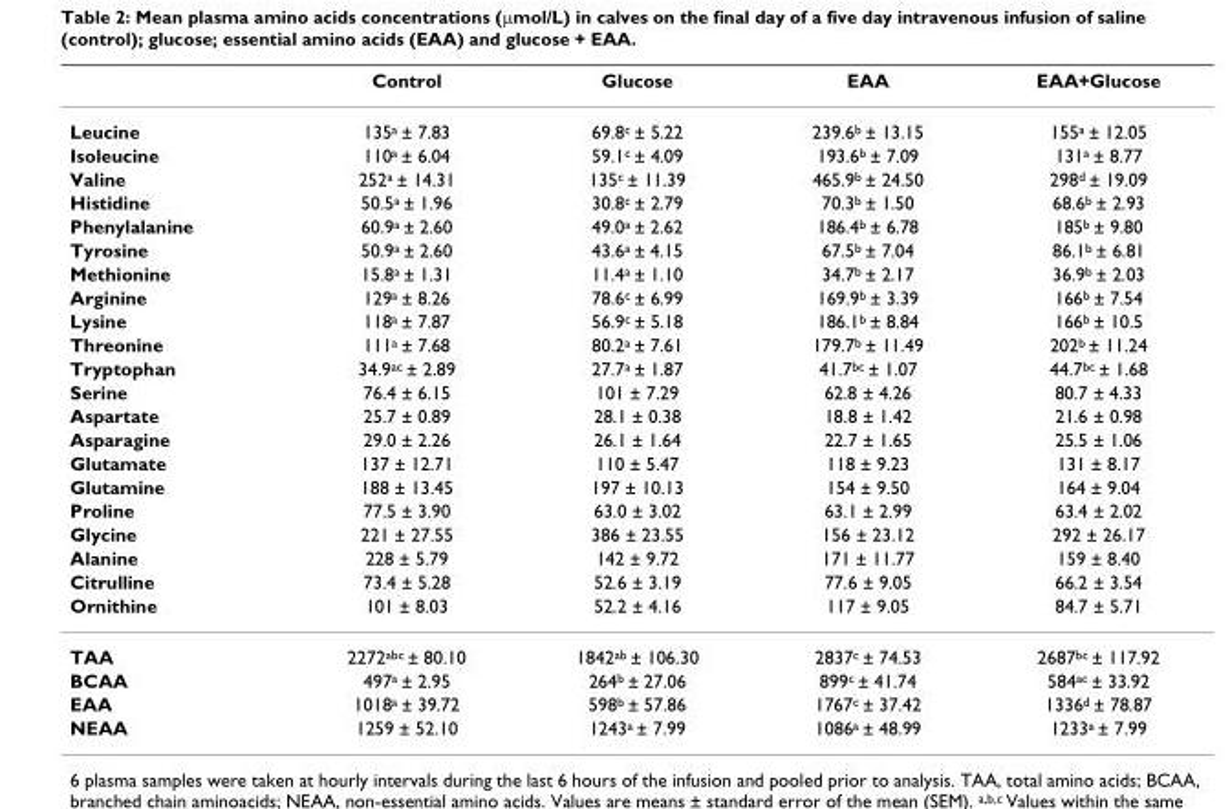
<table><thead><tr><td></td><td>Control</td><td>Glucose</td><td>EAA</td><td>EAA+Glucose</td></tr></thead><tbody><tr><td>Leucine</td><td>135<sup>a</sup> ± 7.83</td><td>69.8<sup>c</sup> ± 5.22</td><td>239.6<sup>b</sup> ± 13.15</td><td>155<sup>a</sup> ± 12.05</td></tr><tr><td>Isoleucine</td><td>110<sup>a</sup> ± 6.04</td><td>59.1<sup>c</sup> ± 4.09</td><td>193.6<sup>b</sup> ± 7.09</td><td>131<sup>a</sup> ± 8.77</td></tr><tr><td>Valine</td><td>252<sup>a</sup> ± 14.31</td><td>135<sup>c</sup> ± 11.39</td><td>465.9<sup>b</sup> ± 24.50</td><td>298<sup>d</sup> ± 19.09</td></tr><tr><td>Histidine</td><td>50.5<sup>a</sup> ± 1.96</td><td>30.8<sup>c</sup> ± 2.79</td><td>70.3<sup>b</sup> ± 1.50</td><td>68.6<sup>b</sup> ± 2.93</td></tr><tr><td>Phenylalanine</td><td>60.9<sup>a</sup> ± 2.60</td><td>49.0<sup>a</sup> ± 2.62</td><td>186.4<sup>b</sup> ± 6.78</td><td>185<sup>b</sup> ± 9.80</td></tr><tr><td>Tyrosine</td><td>50.9<sup>a</sup> ± 2.60</td><td>43.6<sup>a</sup> ± 4.15</td><td>67.5<sup>b</sup> ± 7.04</td><td>86.1<sup>b</sup> ± 6.81</td></tr><tr><td>Methionine</td><td>15.8<sup>a</sup> ± 1.31</td><td>11.4<sup>a</sup> ± 1.10</td><td>34.7<sup>b</sup> ± 2.17</td><td>36.9<sup>b</sup> ± 2.03</td></tr><tr><td>Arginine</td><td>129<sup>a</sup> ± 8.26</td><td>78.6<sup>c</sup> ± 6.99</td><td>169.9<sup>b</sup> ± 3.39</td><td>166<sup>b</sup> ± 7.54</td></tr><tr><td>Lysine</td><td>118<sup>a</sup> ± 7.87</td><td>56.9<sup>c</sup> ± 5.18</td><td>186.1<sup>b</sup> ± 8.84</td><td>166<sup>b</sup> ± 10.5</td></tr><tr><td>Threonine</td><td>111<sup>a</sup> ± 7.68</td><td>80.2<sup>a</sup> ± 7.61</td><td>179.7<sup>b</sup> ± 11.49</td><td>202<sup>b</sup> ± 11.24</td></tr><tr><td>Tryptophan</td><td>34.9<sup>ac</sup> ± 2.89</td><td>27.7<sup>a</sup> ± 1.87</td><td>41.7<sup>bc</sup> ± 1.07</td><td>44.7<sup>bc</sup> ± 1.68</td></tr><tr><td>Serine</td><td>76.4 ± 6.15</td><td>101 ± 7.29</td><td>62.8 ± 4.26</td><td>80.7 ± 4.33</td></tr><tr><td>Aspartate</td><td>25.7 ± 0.89</td><td>28.1 ± 0.38</td><td>18.8 ± 1.42</td><td>21.6 ± 0.98</td></tr><tr><td>Asparagine</td><td>29.0 ± 2.26</td><td>26.1 ± 1.64</td><td>22.7 ± 1.65</td><td>25.5 ± 1.06</td></tr><tr><td>Glutamate</td><td>137 ± 12.71</td><td>110 ± 5.47</td><td>118 ± 9.23</td><td>131 ± 8.17</td></tr><tr><td>Glutamine</td><td>188 ± 13.45</td><td>197 ± 10.13</td><td>154 ± 9.50</td><td>164 ± 9.04</td></tr><tr><td>Proline</td><td>77.5 ± 3.90</td><td>63.0 ± 3.02</td><td>63.1 ± 2.99</td><td>63.4 ± 2.02</td></tr><tr><td>Glycine</td><td>221 ± 27.55</td><td>386 ± 23.55</td><td>156 ± 23.12</td><td>292 ± 26.17</td></tr><tr><td>Alanine</td><td>228 ± 5.79</td><td>142 ± 9.72</td><td>171 ± 11.77</td><td>159 ± 8.40</td></tr><tr><td>Citrulline</td><td>73.4 ± 5.28</td><td>52.6 ± 3.19</td><td>77.6 ± 9.05</td><td>66.2 ± 3.54</td></tr><tr><td>Ornithine</td><td>101 ± 8.03</td><td>52.2 ± 4.16</td><td>117 ± 9.05</td><td>84.7 ± 5.71</td></tr><tr><td>TAA</td><td>2272<sup>abc</sup> ± 80.10</td><td>1842<sup>ab</sup> ± 106.30</td><td>2837<sup>c</sup> ± 74.53</td><td>2687<sup>bc</sup> ± 117.92</td></tr><tr><td>BCAA</td><td>497<sup>a</sup> ± 2.95</td><td>264<sup>b</sup> ± 27.06</td><td>899<sup>c</sup> ± 41.74</td><td>584<sup>ac</sup> ± 33.92</td></tr><tr><td>EAA</td><td>1018<sup>a</sup> ± 39.72</td><td>598<sup>b</sup> ± 57.86</td><td>1767<sup>c</sup> ± 37.42</td><td>1336<sup>d</sup> ± 78.87</td></tr><tr><td>NEAA</td><td>1259 ± 52.10</td><td>1243<sup>a</sup> ± 7.99</td><td>1086<sup>a</sup> ± 48.99</td><td>1233<sup>a</sup> ± 7.99</td></tr></tbody></table>